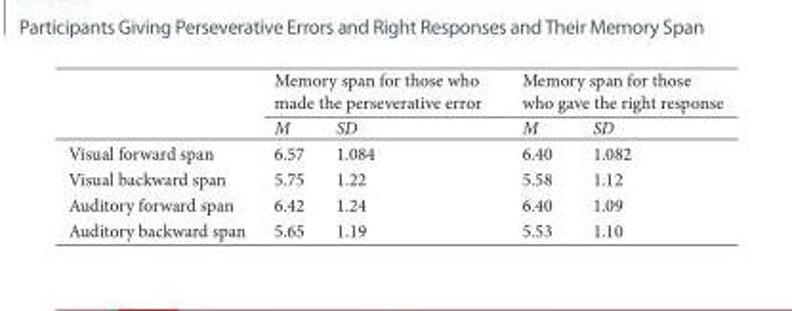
<table><thead><tr><td rowspan="2"></td><td colspan="2">Memory span for those who made the perseverative error</td><td colspan="2">Memory span for those who gave the right response</td></tr><tr><td>M</td><td>SD</td><td>M</td><td>SD</td></tr></thead><tbody><tr><td>Visual forward span</td><td>6.57</td><td>1.084</td><td>6.40</td><td>1.082</td></tr><tr><td>Visual backward span</td><td>5.75</td><td>1.22</td><td>5.58</td><td>1.12</td></tr><tr><td>Auditory forward span</td><td>6.42</td><td>1.24</td><td>6.40</td><td>1.09</td></tr><tr><td>Auditory backward span</td><td>5.65</td><td>1.19</td><td>5.53</td><td>1.10</td></tr></tbody></table>